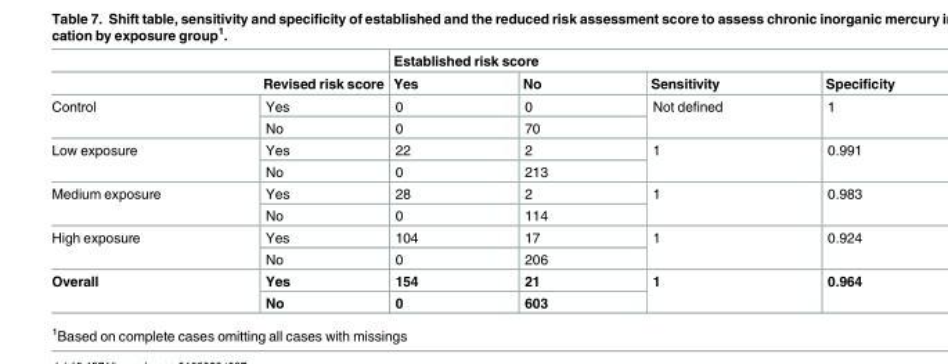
<table><thead><tr><td></td><td></td><td colspan="4">Established risk score</td></tr><tr><td colspan="2">Revised risk score</td><td>Yes</td><td>No</td><td>Sensitivity</td><td>Specificity</td></tr></thead><tbody><tr><td rowspan="2">Control</td><td>Yes</td><td>0</td><td>0</td><td rowspan="2">Not defined</td><td rowspan="2">1</td></tr><tr><td>No</td><td>0</td><td>70</td></tr><tr><td rowspan="2">Low exposure</td><td>Yes</td><td>22</td><td>2</td><td rowspan="2">1</td><td rowspan="2">0.991</td></tr><tr><td>No</td><td>0</td><td>213</td></tr><tr><td rowspan="2">Medium exposure</td><td>Yes</td><td>28</td><td>2</td><td rowspan="2">1</td><td rowspan="2">0.983</td></tr><tr><td>No</td><td>0</td><td>114</td></tr><tr><td rowspan="2">High exposure</td><td>Yes</td><td>104</td><td>17</td><td rowspan="2">1</td><td rowspan="2">0.924</td></tr><tr><td>No</td><td>0</td><td>206</td></tr><tr><td rowspan="2">Overall</td><td>Yes</td><td>154</td><td>21</td><td rowspan="2">1</td><td rowspan="2">0.964</td></tr><tr><td>No</td><td>0</td><td>603</td></tr></tbody></table>